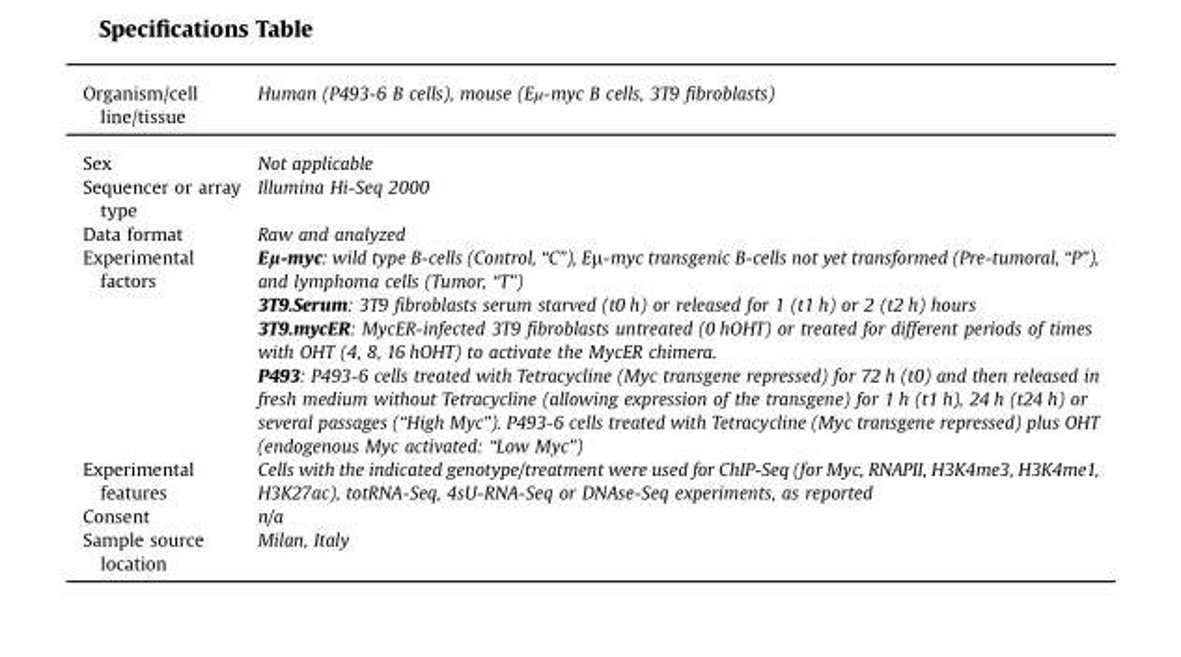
<table><tbody><tr><td>Organism/cell line/tissue</td><td>Human (P493-6 B cells), mouse (Eμ-myc B cells, 3T9 fibroblasts)</td></tr><tr><td>Sex</td><td>Not applicable</td></tr><tr><td>Sequencer or array type</td><td>Illumina Hi-Seq 2000</td></tr><tr><td>Data format</td><td>Raw and analyzed</td></tr><tr><td rowspan="4">Experimental factors</td><td>Eµ-myc: wild type B-cells (Control, “C”), Eµ-myc transgenic B-cells not yet transformed (Pre-tumoral, “P”), and lymphoma cells (Tumor, “T”)</td></tr><tr><td>3T9.Serum: 3T9 fibroblasts serum starved (t0 h) or released for 1 (t1 h) or 2 (t2 h) hours</td></tr><tr><td>3T9.mycER: MycER-infected 3T9 fibroblasts untreated (0 hOHT) or treated for different periods of times with OHT (4, 8, 16 hOHT) to activate the MycER chimera.</td></tr><tr><td>P493: P493-6 cells treated with Tetracycline (Myc transgene repressed) for 72 h (t0) and then released in fresh medium without Tetracycline (allowing expression of the transgene) for 1 h (t1 h), 24 h (t24 h) or several passages (“High Myc”). P493-6 cells treated with Tetracycline (Myc transgene repressed) plus OHT (endogenous Myc activated: “Low Myc”)</td></tr><tr><td>Experimental features</td><td>Cells with the indicated genotype/treatment were used for ChIP-Seq (for Myc, RNAPII, H3K4me3, H3K4me1, H3K27ac), totRNA-Seq, 4sU-RNA-Seq or DNAse-Seq experiments, as reported</td></tr><tr><td>Consent</td><td>n/a</td></tr><tr><td>Sample source location</td><td>Milan, Italy</td></tr></tbody></table>